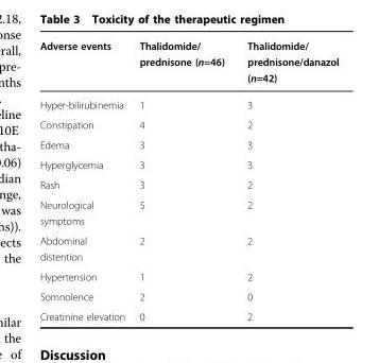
<table><thead><tr><td>Adverse events</td><td>Thalidomide/ prednisone (n=46)</td><td>Thalidomide/ prednisone/danazol (n=42)</td></tr></thead><tbody><tr><td>Hyper-bilirubinemia</td><td>1</td><td>3</td></tr><tr><td>Constipation</td><td>4</td><td>2</td></tr><tr><td>Edema</td><td>3</td><td>3</td></tr><tr><td>Hyperglycemia</td><td>3</td><td>3</td></tr><tr><td>Rash</td><td>3</td><td>2</td></tr><tr><td>Neurological symptoms</td><td>5</td><td>2</td></tr><tr><td>Abdominal distention</td><td>2</td><td>2</td></tr><tr><td>Hypertension</td><td>1</td><td>2</td></tr><tr><td>Somnolence</td><td>2</td><td>0</td></tr><tr><td>Creatinine elevation</td><td>0</td><td>2</td></tr></tbody></table>